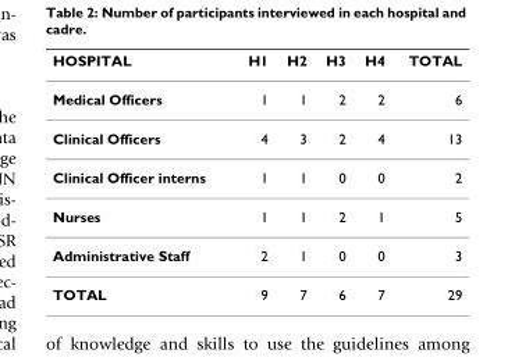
<table><thead><tr><td>HOSPITAL</td><td>H1</td><td>H2</td><td>H3</td><td>H4</td><td>TOTAL</td></tr></thead><tbody><tr><td>Medical Officers</td><td>1</td><td>1</td><td>2</td><td>2</td><td>6</td></tr><tr><td>Clinical Officers</td><td>4</td><td>3</td><td>2</td><td>4</td><td>13</td></tr><tr><td>Clinical Officer interns</td><td>1</td><td>1</td><td>0</td><td>0</td><td>2</td></tr><tr><td>Nurses</td><td>1</td><td>1</td><td>2</td><td>1</td><td>5</td></tr><tr><td>Administrative Staff</td><td>2</td><td>1</td><td>0</td><td>0</td><td>3</td></tr><tr><td>TOTAL</td><td>9</td><td>7</td><td>6</td><td>7</td><td>29</td></tr></tbody></table>